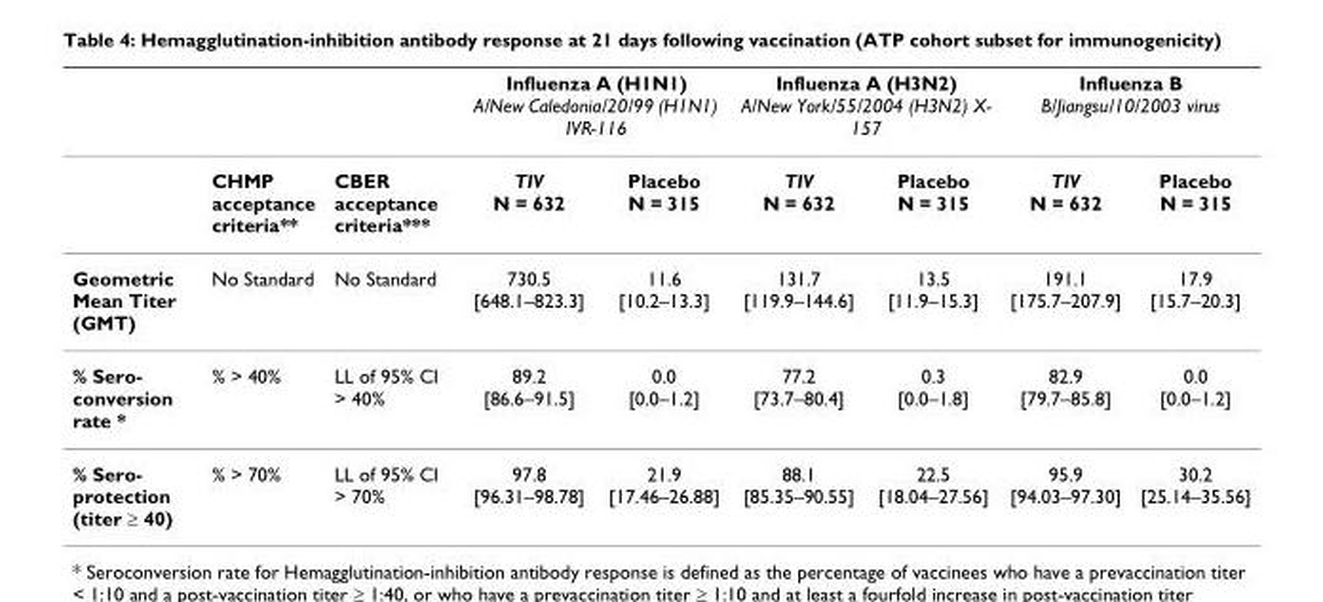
<table><thead><tr><td rowspan="2"></td><td rowspan="2">CHMP acceptance criteria**</td><td rowspan="2">CBER acceptance criteria***</td><td colspan="2">Influenza A (H1N1) A/New Caledonia/20/99 (H1N1) IVR-116</td><td colspan="2">Influenza A (H3N2) A/New York/55/2004 (H3N2) X- 157</td><td colspan="2">Influenza B B/Jiangsu/10/2003 virus</td></tr><tr><td>TIV N = 632</td><td>Placebo N = 315</td><td>TIV N = 632</td><td>Placebo N = 315</td><td>TIV N = 632</td><td>Placebo N = 315</td></tr></thead><tbody><tr><td>Geometric Mean Titer (GMT)</td><td>No Standard</td><td>No Standard</td><td>730.5 [648.1–823.3]</td><td>11.6 [10.2–13.3]</td><td>131.7 [119.9–144.6]</td><td>13.5 [11.9–15.3]</td><td>191.1 [175.7–207.9]</td><td>17.9 [15.7–20.3]</td></tr><tr><td>% Sero- conversion rate *</td><td>% &gt; 40%</td><td>LL of 95% CI &gt; 40%</td><td>89.2 [86.6–91.5]</td><td>0.0 [0.0–1.2]</td><td>77.2 [73.7–80.4]</td><td>0.3 [0.0–1.8]</td><td>82.9 [79.7–85.8]</td><td>0.0 [0.0–1.2]</td></tr><tr><td>% Sero- protection (titer ≥ 40)</td><td>% &gt; 70%</td><td>LL of 95% CI &gt; 70%</td><td>97.8 [96.31–98.78]</td><td>21.9 [17.46–26.88]</td><td>88.1 [85.35–90.55]</td><td>22.5 [18.04–27.56]</td><td>95.9 [94.03–97.30]</td><td>30.2 [25.14–35.56]</td></tr></tbody></table>